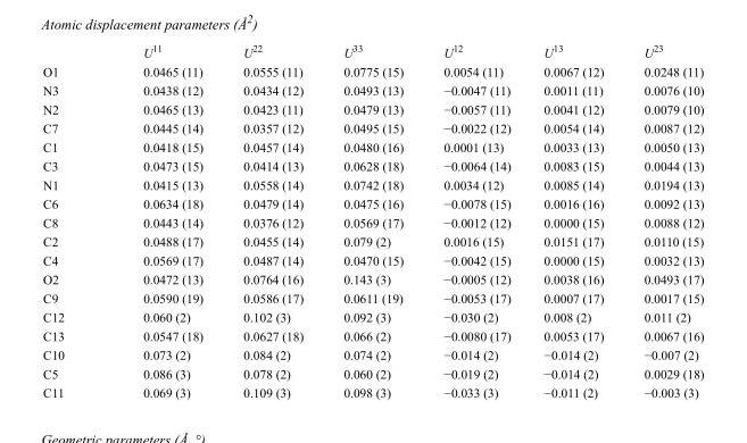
<table><thead><tr><td></td><td>U<sup>11</sup></td><td>U<sup>22</sup></td><td>U<sup>33</sup></td><td>U<sup>12</sup></td><td>U<sup>13</sup></td><td>U<sup>23</sup></td></tr></thead><tbody><tr><td>O1</td><td>0.0465 (11)</td><td>0.0555 (11)</td><td>0.0775 (15)</td><td>0.0054 (11)</td><td>0.0067 (12)</td><td>0.0248 (11)</td></tr><tr><td>N3</td><td>0.0438 (12)</td><td>0.0434 (12)</td><td>0.0493 (13)</td><td>−0.0047 (11)</td><td>0.0011 (11)</td><td>0.0076 (10)</td></tr><tr><td>N2</td><td>0.0465 (13)</td><td>0.0423 (11)</td><td>0.0479 (13)</td><td>−0.0057 (11)</td><td>0.0041 (12)</td><td>0.0079 (10)</td></tr><tr><td>C7</td><td>0.0445 (14)</td><td>0.0357 (12)</td><td>0.0495 (15)</td><td>−0.0022 (12)</td><td>0.0054 (14)</td><td>0.0087 (12)</td></tr><tr><td>C1</td><td>0.0418 (15)</td><td>0.0457 (14)</td><td>0.0480 (16)</td><td>0.0001 (13)</td><td>0.0033 (13)</td><td>0.0050 (13)</td></tr><tr><td>C3</td><td>0.0473 (15)</td><td>0.0414 (13)</td><td>0.0628 (18)</td><td>−0.0064 (14)</td><td>0.0083 (15)</td><td>0.0044 (13)</td></tr><tr><td>N1</td><td>0.0415 (13)</td><td>0.0558 (14)</td><td>0.0742 (18)</td><td>0.0034 (12)</td><td>0.0085 (14)</td><td>0.0194 (13)</td></tr><tr><td>C6</td><td>0.0634 (18)</td><td>0.0479 (14)</td><td>0.0475 (16)</td><td>−0.0078 (15)</td><td>0.0016 (16)</td><td>0.0092 (13)</td></tr><tr><td>C8</td><td>0.0443 (14)</td><td>0.0376 (12)</td><td>0.0569 (17)</td><td>−0.0012 (12)</td><td>0.0000 (15)</td><td>0.0088 (12)</td></tr><tr><td>C2</td><td>0.0488 (17)</td><td>0.0455 (14)</td><td>0.079 (2)</td><td>0.0016 (15)</td><td>0.0151 (17)</td><td>0.0110 (15)</td></tr><tr><td>C4</td><td>0.0569 (17)</td><td>0.0487 (14)</td><td>0.0470 (15)</td><td>−0.0042 (15)</td><td>0.0000 (15)</td><td>0.0032 (13)</td></tr><tr><td>O2</td><td>0.0472 (13)</td><td>0.0764 (16)</td><td>0.143 (3)</td><td>−0.0005 (12)</td><td>0.0038 (16)</td><td>0.0493 (17)</td></tr><tr><td>C9</td><td>0.0590 (19)</td><td>0.0586 (17)</td><td>0.0611 (19)</td><td>−0.0053 (17)</td><td>0.0007 (17)</td><td>0.0017 (15)</td></tr><tr><td>C12</td><td>0.060 (2)</td><td>0.102 (3)</td><td>0.092 (3)</td><td>−0.030 (2)</td><td>0.008 (2)</td><td>0.011 (2)</td></tr><tr><td>C13</td><td>0.0547 (18)</td><td>0.0627 (18)</td><td>0.066 (2)</td><td>−0.0080 (17)</td><td>0.0053 (17)</td><td>0.0067 (16)</td></tr><tr><td>C10</td><td>0.073 (2)</td><td>0.084 (2)</td><td>0.074 (2)</td><td>−0.014 (2)</td><td>−0.014 (2)</td><td>−0.007 (2)</td></tr><tr><td>C5</td><td>0.086 (3)</td><td>0.078 (2)</td><td>0.060 (2)</td><td>−0.019 (2)</td><td>−0.014 (2)</td><td>0.0029 (18)</td></tr><tr><td>C11</td><td>0.069 (3)</td><td>0.109 (3)</td><td>0.098 (3)</td><td>−0.033 (3)</td><td>−0.011 (2)</td><td>−0.003 (3)</td></tr></tbody></table>